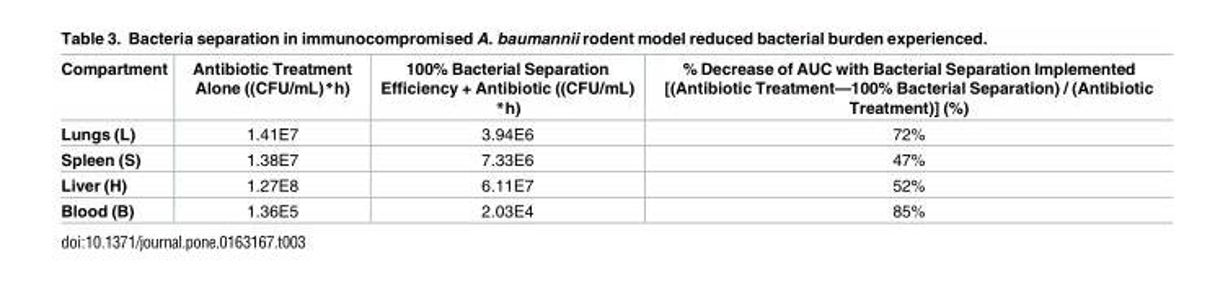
<table><thead><tr><td>Compartment</td><td>Antibiotic Treatment Alone ((CFU/mL)*h)</td><td>100% Bacterial Separation Efficiency + Antibiotic ((CFU/mL) *h)</td><td>% Decrease of AUC with Bacterial Separation Implemented [(Antibiotic Treatment—100% Bacterial Separation) / (Antibiotic Treatment)] (%)</td></tr></thead><tbody><tr><td>Lungs (L)</td><td>1.41E7</td><td>3.94E6</td><td>72%</td></tr><tr><td>Spleen (S)</td><td>1.38E7</td><td>7.33E6</td><td>47%</td></tr><tr><td>Liver (H)</td><td>1.27E8</td><td>6.11E7</td><td>52%</td></tr><tr><td>Blood (B)</td><td>1.36E5</td><td>2.03E4</td><td>85%</td></tr></tbody></table>